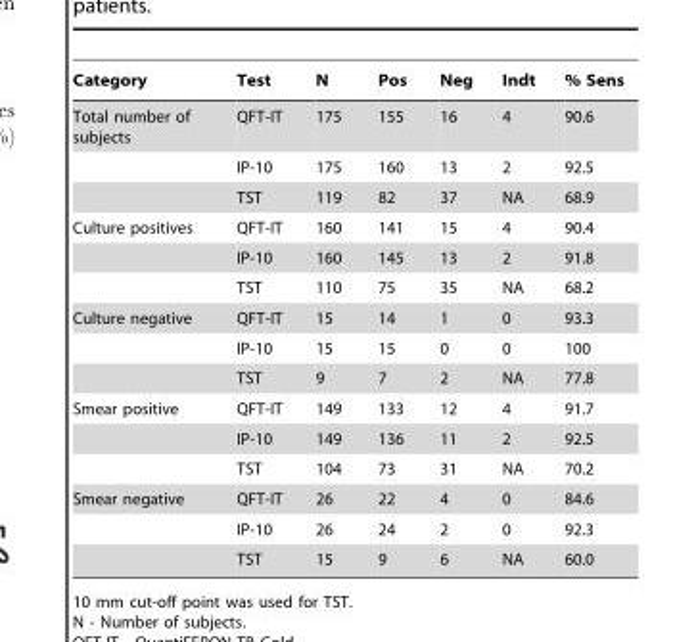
<table><thead><tr><td>Category</td><td>Test</td><td>N</td><td>Pos</td><td>Neg</td><td>Indt</td><td>% Sens</td></tr></thead><tbody><tr><td rowspan="3">Total number of subjects</td><td>QFT-IT</td><td>175</td><td>155</td><td>16</td><td>4</td><td>90.6</td></tr><tr><td>IP-10</td><td>175</td><td>160</td><td>13</td><td>2</td><td>92.5</td></tr><tr><td>TST</td><td>119</td><td>82</td><td>37</td><td>NA</td><td>68.9</td></tr><tr><td rowspan="3">Culture positives</td><td>QFT-IT</td><td>160</td><td>141</td><td>15</td><td>4</td><td>90.4</td></tr><tr><td>IP-10</td><td>160</td><td>145</td><td>13</td><td>2</td><td>91.8</td></tr><tr><td>TST</td><td>110</td><td>75</td><td>35</td><td>NA</td><td>68.2</td></tr><tr><td rowspan="3">Culture negative</td><td>QFT-IT</td><td>15</td><td>14</td><td>1</td><td>0</td><td>93.3</td></tr><tr><td>IP-10</td><td>15</td><td>15</td><td>0</td><td>0</td><td>100</td></tr><tr><td>TST</td><td>9</td><td>7</td><td>2</td><td>NA</td><td>77.8</td></tr><tr><td rowspan="3">Smear positive</td><td>QFT-IT</td><td>149</td><td>133</td><td>12</td><td>4</td><td>91.7</td></tr><tr><td>IP-10</td><td>149</td><td>136</td><td>11</td><td>2</td><td>92.5</td></tr><tr><td>TST</td><td>104</td><td>73</td><td>31</td><td>NA</td><td>70.2</td></tr><tr><td rowspan="3">Smear negative</td><td>QFT-IT</td><td>26</td><td>22</td><td>4</td><td>0</td><td>84.6</td></tr><tr><td>IP-10</td><td>26</td><td>24</td><td>2</td><td>0</td><td>92.3</td></tr><tr><td>TST</td><td>15</td><td>9</td><td>6</td><td>NA</td><td>60.0</td></tr></tbody></table>